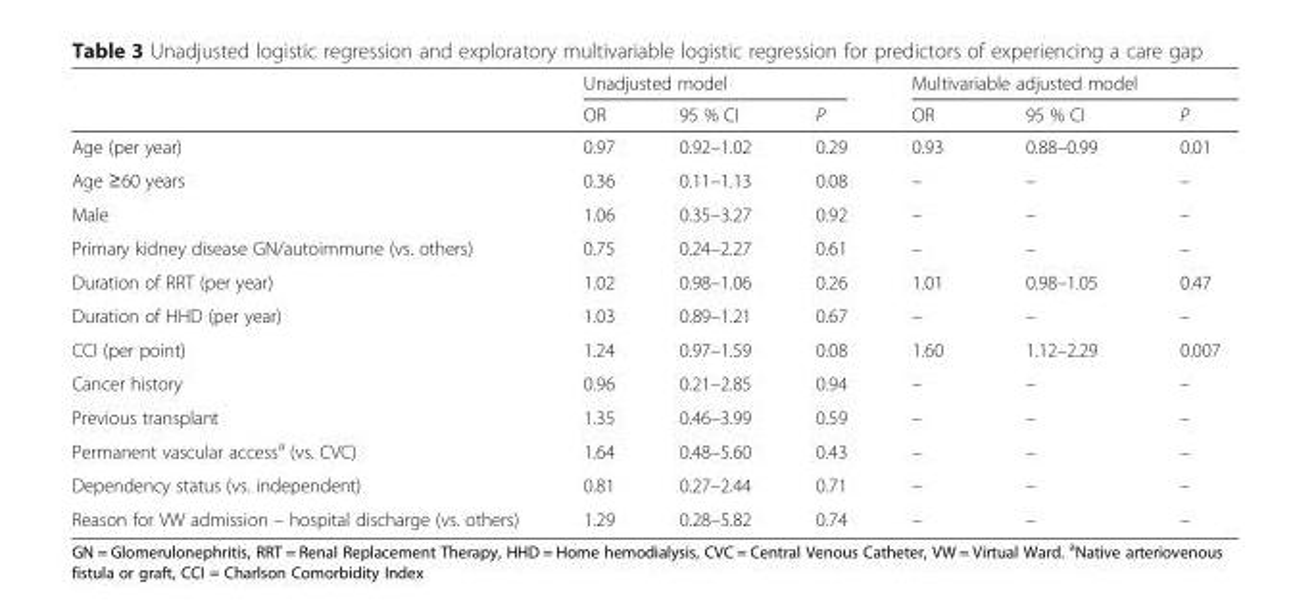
<table><thead><tr><td rowspan="2"></td><td colspan="3">Unadjusted model</td><td colspan="3">Multivariable adjusted model</td></tr><tr><td>OR</td><td>95 % CI</td><td>P</td><td>OR</td><td>95 % CI</td><td>P</td></tr></thead><tbody><tr><td>Age (per year)</td><td>0.97</td><td>0.92–1.02</td><td>0.29</td><td>0.93</td><td>0.88–0.99</td><td>0.01</td></tr><tr><td>Age ≥60 years</td><td>0.36</td><td>0.11–1.13</td><td>0.08</td><td>–</td><td>–</td><td>–</td></tr><tr><td>Male</td><td>1.06</td><td>0.35–3.27</td><td>0.92</td><td>–</td><td>–</td><td>–</td></tr><tr><td>Primary kidney disease GN/autoimmune (vs. others)</td><td>0.75</td><td>0.24–2.27</td><td>0.61</td><td>–</td><td>–</td><td>–</td></tr><tr><td>Duration of RRT (per year)</td><td>1.02</td><td>0.98–1.06</td><td>0.26</td><td>1.01</td><td>0.98–1.05</td><td>0.47</td></tr><tr><td>Duration of HHD (per year)</td><td>1.03</td><td>0.89–1.21</td><td>0.67</td><td>–</td><td>–</td><td>–</td></tr><tr><td>CCI (per point)</td><td>1.24</td><td>0.97–1.59</td><td>0.08</td><td>1.60</td><td>1.12–2.29</td><td>0.007</td></tr><tr><td>Cancer history</td><td>0.96</td><td>0.21–2.85</td><td>0.94</td><td>–</td><td>–</td><td>–</td></tr><tr><td>Previous transplant</td><td>1.35</td><td>0.46–3.99</td><td>0.59</td><td>–</td><td>–</td><td>–</td></tr><tr><td>Permanent vascular access<sup>a</sup> (vs. CVC)</td><td>1.64</td><td>0.48–5.60</td><td>0.43</td><td>–</td><td>–</td><td>–</td></tr><tr><td>Dependency status (vs. independent)</td><td>0.81</td><td>0.27–2.44</td><td>0.71</td><td>–</td><td>–</td><td>–</td></tr><tr><td>Reason for VW admission – hospital discharge (vs. others)</td><td>1.29</td><td>0.28–5.82</td><td>0.74</td><td>–</td><td>–</td><td>–</td></tr></tbody></table>